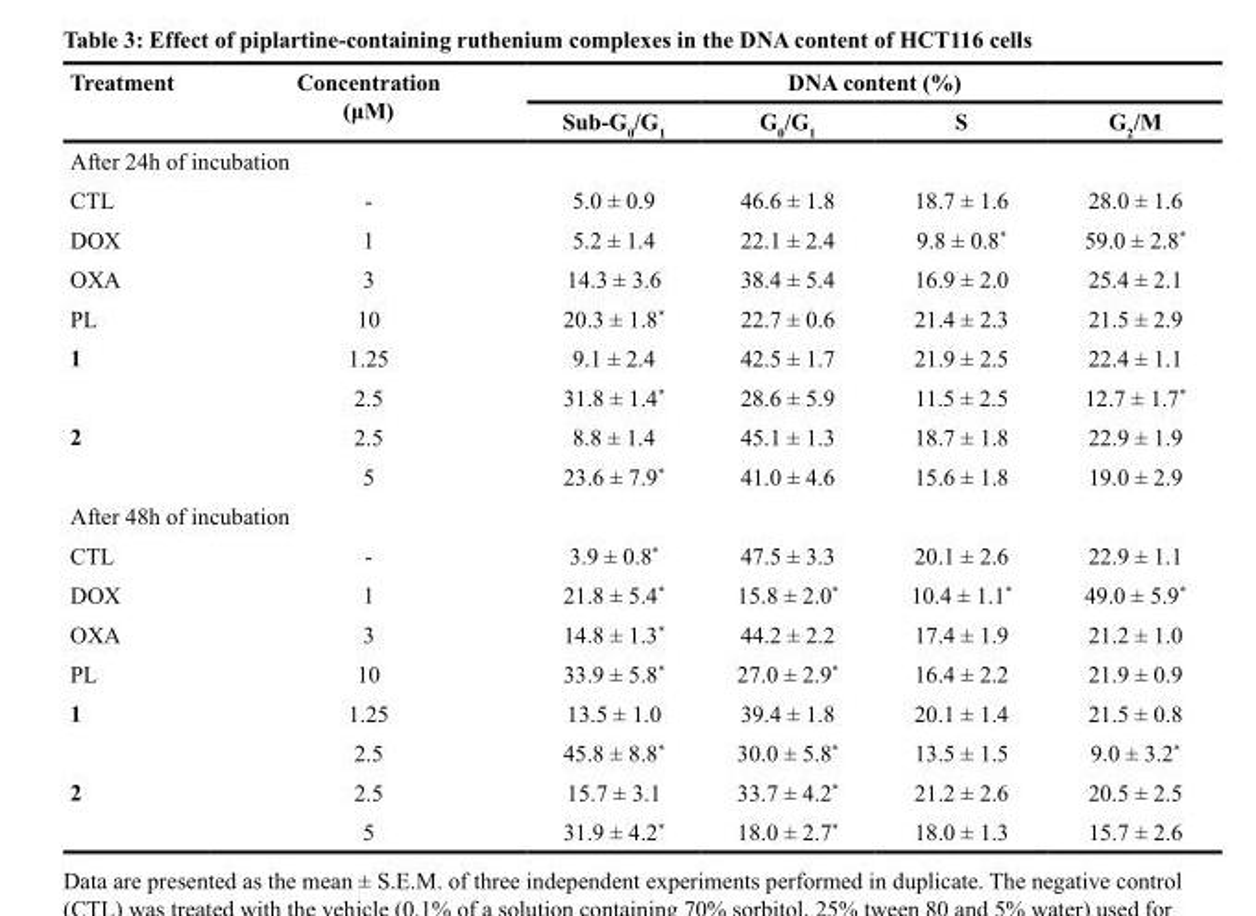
<table><thead><tr><td rowspan="2">Treatment</td><td rowspan="2">Concentration (μM)</td><td colspan="4">DNA content (%)</td></tr><tr><td>Sub-G<sub>0</sub>/G<sub>1</sub></td><td>G<sub>0</sub>/G<sub>1</sub></td><td>S</td><td>G<sub>2</sub>/M</td></tr></thead><tbody><tr><td colspan="6">After 24h of incubation</td></tr><tr><td>CTL</td><td>-</td><td>5.0 ± 0.9</td><td>46.6 ± 1.8</td><td>18.7 ± 1.6</td><td>28.0 ± 1.6</td></tr><tr><td>DOX</td><td>1</td><td>5.2 ± 1.4</td><td>22.1 ± 2.4</td><td>9.8 ± 0.8*</td><td>59.0 ± 2.8*</td></tr><tr><td>OXA</td><td>3</td><td>14.3 ± 3.6</td><td>38.4 ± 5.4</td><td>16.9 ± 2.0</td><td>25.4 ± 2.1</td></tr><tr><td>PL</td><td>10</td><td>20.3 ± 1.8*</td><td>22.7 ± 0.6</td><td>21.4 ± 2.3</td><td>21.5 ± 2.9</td></tr><tr><td rowspan="2">1</td><td>1.25</td><td>9.1 ± 2.4</td><td>42.5 ± 1.7</td><td>21.9 ± 2.5</td><td>22.4 ± 1.1</td></tr><tr><td>2.5</td><td>31.8 ± 1.4*</td><td>28.6 ± 5.9</td><td>11.5 ± 2.5</td><td>12.7 ± 1.7*</td></tr><tr><td rowspan="2">2</td><td>2.5</td><td>8.8 ± 1.4</td><td>45.1 ± 1.3</td><td>18.7 ± 1.8</td><td>22.9 ± 1.9</td></tr><tr><td>5</td><td>23.6 ± 7.9*</td><td>41.0 ± 4.6</td><td>15.6 ± 1.8</td><td>19.0 ± 2.9</td></tr><tr><td colspan="6">After 48h of incubation</td></tr><tr><td>CTL</td><td>-</td><td>3.9 ± 0.8*</td><td>47.5 ± 3.3</td><td>20.1 ± 2.6</td><td>22.9 ± 1.1</td></tr><tr><td>DOX</td><td>1</td><td>21.8 ± 5.4*</td><td>15.8 ± 2.0*</td><td>10.4 ± 1.1*</td><td>49.0 ± 5.9*</td></tr><tr><td>OXA</td><td>3</td><td>14.8 ± 1.3*</td><td>44.2 ± 2.2</td><td>17.4 ± 1.9</td><td>21.2 ± 1.0</td></tr><tr><td>PL</td><td>10</td><td>33.9 ± 5.8*</td><td>27.0 ± 2.9*</td><td>16.4 ± 2.2</td><td>21.9 ± 0.9</td></tr><tr><td rowspan="2">1</td><td>1.25</td><td>13.5 ± 1.0</td><td>39.4 ± 1.8</td><td>20.1 ± 1.4</td><td>21.5 ± 0.8</td></tr><tr><td>2.5</td><td>45.8 ± 8.8*</td><td>30.0 ± 5.8*</td><td>13.5 ± 1.5</td><td>9.0 ± 3.2*</td></tr><tr><td rowspan="2">2</td><td>2.5</td><td>15.7 ± 3.1</td><td>33.7 ± 4.2*</td><td>21.2 ± 2.6</td><td>20.5 ± 2.5</td></tr><tr><td>5</td><td>31.9 ± 4.2*</td><td>18.0 ± 2.7*</td><td>18.0 ± 1.3</td><td>15.7 ± 2.6</td></tr></tbody></table>